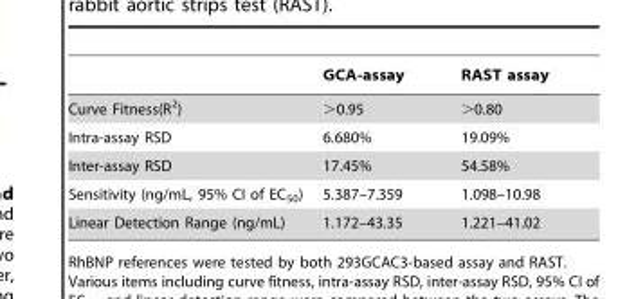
<table><thead><tr><td></td><td>GCA-assay</td><td>RAST assay</td></tr></thead><tbody><tr><td>Curve Fitness(R<sup>2</sup>)</td><td>&gt;0.95</td><td>&gt;0.80</td></tr><tr><td>Intra-assay RSD</td><td>6.680%</td><td>19.09%</td></tr><tr><td>Inter-assay RSD</td><td>17.45%</td><td>54.58%</td></tr><tr><td>Sensitivity (ng/mL, 95% CI of EC<sub>50</sub>)</td><td>5.387–7.359</td><td>1.098–10.98</td></tr><tr><td>Linear Detection Range (ng/mL)</td><td>1.172–43.35</td><td>1.221–41.02</td></tr></tbody></table>